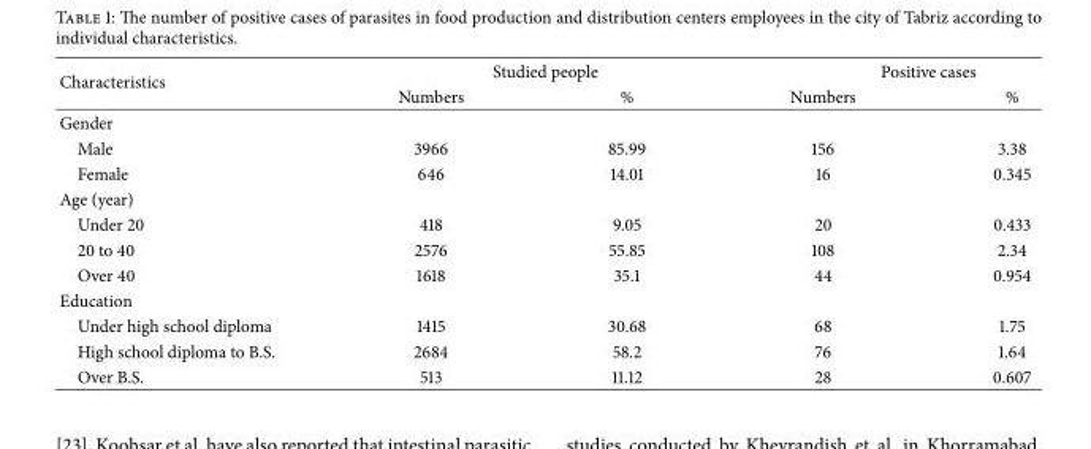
<table><thead><tr><td rowspan="2">Characteristics</td><td colspan="2">Studied people</td><td colspan="2">Positive cases</td></tr><tr><td>Numbers</td><td>%</td><td>Numbers</td><td>%</td></tr></thead><tbody><tr><td colspan="5">Gender</td></tr><tr><td>Male</td><td>3966</td><td>85.99</td><td>156</td><td>3.38</td></tr><tr><td>Female</td><td>646</td><td>14.01</td><td>16</td><td>0.345</td></tr><tr><td colspan="5">Age (year)</td></tr><tr><td>Under 20</td><td>418</td><td>9.05</td><td>20</td><td>0.433</td></tr><tr><td>20 to 40</td><td>2576</td><td>55.85</td><td>108</td><td>2.34</td></tr><tr><td>Over 40</td><td>1618</td><td>35.1</td><td>44</td><td>0.954</td></tr><tr><td colspan="5">Education</td></tr><tr><td>Under high school diploma</td><td>1415</td><td>30.68</td><td>68</td><td>1.75</td></tr><tr><td>High school diploma to B.S.</td><td>2684</td><td>58.2</td><td>76</td><td>1.64</td></tr><tr><td>Over B.S.</td><td>513</td><td>11.12</td><td>28</td><td>0.607</td></tr></tbody></table>